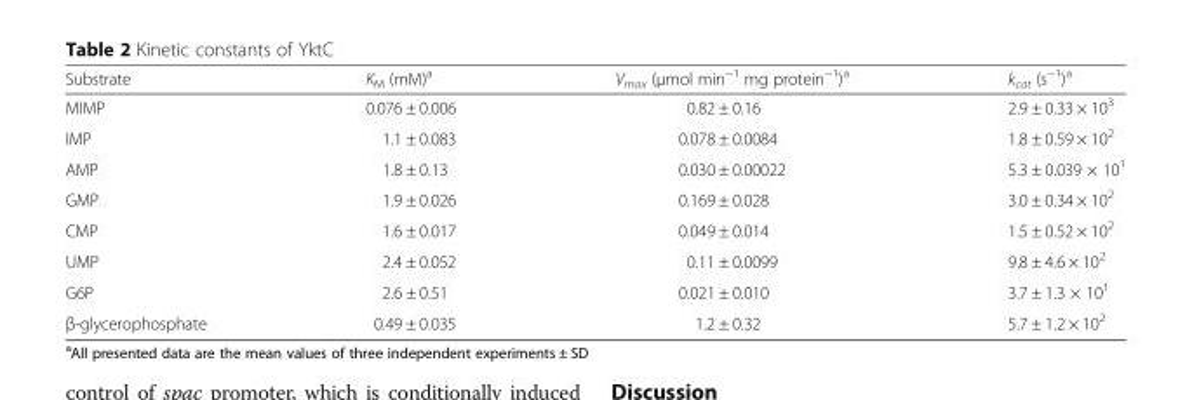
<table><thead><tr><td>Substrate</td><td>K<sub>M</sub> (mM)<sup>a</sup></td><td>V<sub>max</sub> (μmol min<sup>−1</sup> mg protein<sup>−1</sup>)<sup>a</sup></td><td>k<sub>cat</sub> (s<sup>−1</sup>)<sup>a</sup></td></tr></thead><tbody><tr><td>MIMP</td><td>0.076 ± 0.006</td><td>0.82 ± 0.16</td><td>2.9 ± 0.33 × 10<sup>3</sup></td></tr><tr><td>IMP</td><td>1.1 ± 0.083</td><td>0.078 ± 0.0084</td><td>1.8 ± 0.59 × 10<sup>2</sup></td></tr><tr><td>AMP</td><td>1.8 ± 0.13</td><td>0.030 ± 0.00022</td><td>5.3 ± 0.039 × 10<sup>1</sup></td></tr><tr><td>GMP</td><td>1.9 ± 0.026</td><td>0.169 ± 0.028</td><td>3.0 ± 0.34 × 10<sup>2</sup></td></tr><tr><td>CMP</td><td>1.6 ± 0.017</td><td>0.049 ± 0.014</td><td>1.5 ± 0.52 × 10<sup>2</sup></td></tr><tr><td>UMP</td><td>2.4 ± 0.052</td><td>0.11 ± 0.0099</td><td>9.8 ± 4.6 × 10<sup>2</sup></td></tr><tr><td>G6P</td><td>2.6 ± 0.51</td><td>0.021 ± 0.010</td><td>3.7 ± 1.3 × 10<sup>1</sup></td></tr><tr><td>β-glycerophosphate</td><td>0.49 ± 0.035</td><td>1.2 ± 0.32</td><td>5.7 ± 1.2 × 10<sup>2</sup></td></tr></tbody></table>